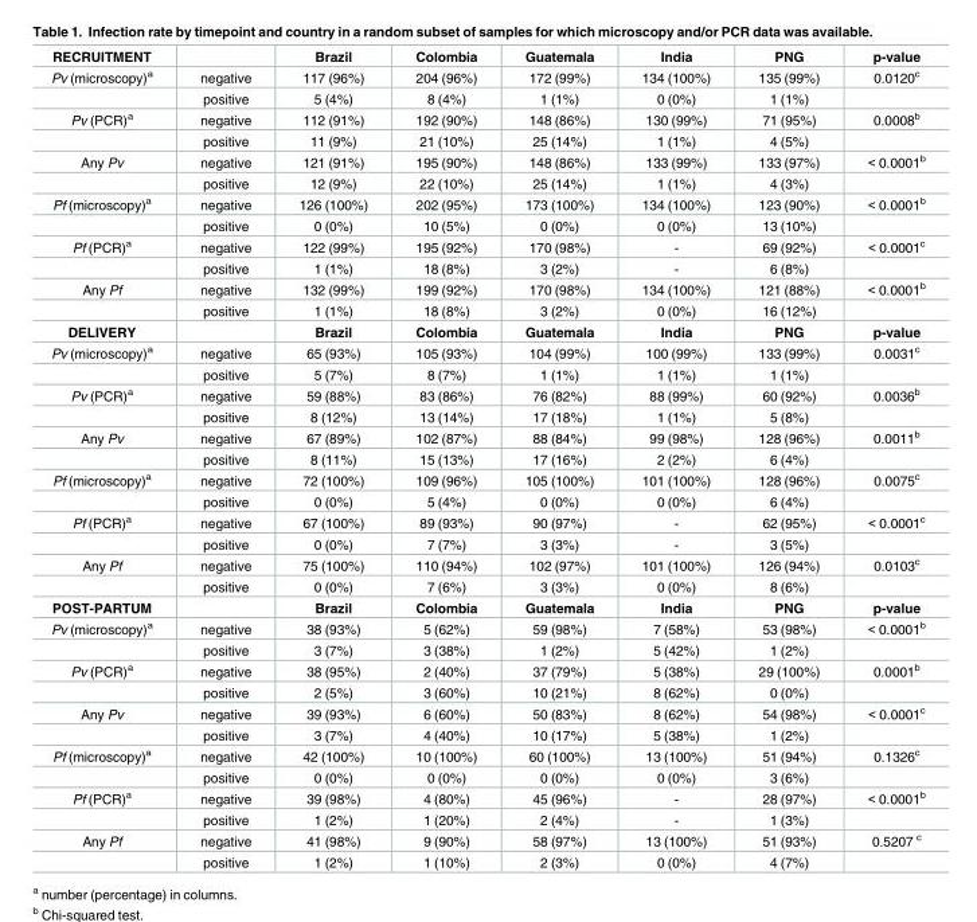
<table><tbody><tr><td>RECRUITMENT</td><td></td><td>Brazil</td><td>Colombia</td><td>Guatemala</td><td>India</td><td>PNG</td><td>p-value</td></tr><tr><td rowspan="2">Pv (microscopy)<sup>a</sup></td><td>negative</td><td>117 (96%)</td><td>204 (96%)</td><td>172 (99%)</td><td>134 (100%)</td><td>135 (99%)</td><td>0.0120<sup>c</sup></td></tr><tr><td>positive</td><td>5 (4%)</td><td>8 (4%)</td><td>1 (1%)</td><td>0 (0%)</td><td>1 (1%)</td><td></td></tr><tr><td rowspan="2">Pv (PCR)<sup>a</sup></td><td>negative</td><td>112 (91%)</td><td>192 (90%)</td><td>148 (86%)</td><td>130 (99%)</td><td>71 (95%)</td><td>0.0008<sup>b</sup></td></tr><tr><td>positive</td><td>11 (9%)</td><td>21 (10%)</td><td>25 (14%)</td><td>1 (1%)</td><td>4 (5%)</td><td></td></tr><tr><td rowspan="2">Any Pv</td><td>negative</td><td>121 (91%)</td><td>195 (90%)</td><td>148 (86%)</td><td>133 (99%)</td><td>133 (97%)</td><td>&lt; 0.0001<sup>b</sup></td></tr><tr><td>positive</td><td>12 (9%)</td><td>22 (10%)</td><td>25 (14%)</td><td>1 (1%)</td><td>4 (3%)</td><td></td></tr><tr><td rowspan="2">Pf (microscopy)<sup>a</sup></td><td>negative</td><td>126 (100%)</td><td>202 (95%)</td><td>173 (100%)</td><td>134 (100%)</td><td>123 (90%)</td><td>&lt; 0.0001<sup>b</sup></td></tr><tr><td>positive</td><td>0 (0%)</td><td>10 (5%)</td><td>0 (0%)</td><td>0 (0%)</td><td>13 (10%)</td><td></td></tr><tr><td rowspan="2">Pf (PCR)<sup>a</sup></td><td>negative</td><td>122 (99%)</td><td>195 (92%)</td><td>170 (98%)</td><td>-</td><td>69 (92%)</td><td>&lt; 0.0001<sup>c</sup></td></tr><tr><td>positive</td><td>1 (1%)</td><td>18 (8%)</td><td>3 (2%)</td><td>-</td><td>6 (8%)</td><td></td></tr><tr><td rowspan="2">Any Pf</td><td>negative</td><td>132 (99%)</td><td>199 (92%)</td><td>170 (98%)</td><td>134 (100%)</td><td>121 (88%)</td><td>&lt; 0.0001<sup>b</sup></td></tr><tr><td>positive</td><td>1 (1%)</td><td>18 (8%)</td><td>3 (2%)</td><td>0 (0%)</td><td>16 (12%)</td><td></td></tr><tr><td>DELIVERY</td><td></td><td>Brazil</td><td>Colombia</td><td>Guatemala</td><td>India</td><td>PNG</td><td>p-value</td></tr><tr><td rowspan="2">Pv (microscopy)<sup>a</sup></td><td>negative</td><td>65 (93%)</td><td>105 (93%)</td><td>104 (99%)</td><td>100 (99%)</td><td>133 (99%)</td><td>0.0031<sup>c</sup></td></tr><tr><td>positive</td><td>5 (7%)</td><td>8 (7%)</td><td>1 (1%)</td><td>1 (1%)</td><td>1 (1%)</td><td></td></tr><tr><td rowspan="2">Pv (PCR)<sup>a</sup></td><td>negative</td><td>59 (88%)</td><td>83 (86%)</td><td>76 (82%)</td><td>88 (99%)</td><td>60 (92%)</td><td>0.0036<sup>b</sup></td></tr><tr><td>positive</td><td>8 (12%)</td><td>13 (14%)</td><td>17 (18%)</td><td>1 (1%)</td><td>5 (8%)</td><td></td></tr><tr><td rowspan="2">Any Pv</td><td>negative</td><td>67 (89%)</td><td>102 (87%)</td><td>88 (84%)</td><td>99 (98%)</td><td>128 (96%)</td><td>0.0011<sup>b</sup></td></tr><tr><td>positive</td><td>8 (11%)</td><td>15 (13%)</td><td>17 (16%)</td><td>2 (2%)</td><td>6 (4%)</td><td></td></tr><tr><td rowspan="2">Pf (microscopy)<sup>a</sup></td><td>negative</td><td>72 (100%)</td><td>109 (96%)</td><td>105 (100%)</td><td>101 (100%)</td><td>128 (96%)</td><td>0.0075<sup>c</sup></td></tr><tr><td>positive</td><td>0 (0%)</td><td>5 (4%)</td><td>0 (0%)</td><td>0 (0%)</td><td>6 (4%)</td><td></td></tr><tr><td rowspan="2">Pf (PCR)<sup>a</sup></td><td>negative</td><td>67 (100%)</td><td>89 (93%)</td><td>90 (97%)</td><td>-</td><td>62 (95%)</td><td>&lt; 0.0001<sup>c</sup></td></tr><tr><td>positive</td><td>0 (0%)</td><td>7 (7%)</td><td>3 (3%)</td><td>-</td><td>3 (5%)</td><td></td></tr><tr><td rowspan="2">Any Pf</td><td>negative</td><td>75 (100%)</td><td>110 (94%)</td><td>102 (97%)</td><td>101 (100%)</td><td>126 (94%)</td><td>0.0103<sup>c</sup></td></tr><tr><td>positive</td><td>0 (0%)</td><td>7 (6%)</td><td>3 (3%)</td><td>0 (0%)</td><td>8 (6%)</td><td></td></tr><tr><td>POST-PARTUM</td><td></td><td>Brazil</td><td>Colombia</td><td>Guatemala</td><td>India</td><td>PNG</td><td>p-value</td></tr><tr><td rowspan="2">Pv (microscopy)<sup>a</sup></td><td>negative</td><td>38 (93%)</td><td>5 (62%)</td><td>59 (98%)</td><td>7 (58%)</td><td>53 (98%)</td><td>&lt; 0.0001<sup>b</sup></td></tr><tr><td>positive</td><td>3 (7%)</td><td>3 (38%)</td><td>1 (2%)</td><td>5 (42%)</td><td>1 (2%)</td><td></td></tr><tr><td rowspan="2">Pv (PCR)<sup>a</sup></td><td>negative</td><td>38 (95%)</td><td>2 (40%)</td><td>37 (79%)</td><td>5 (38%)</td><td>29 (100%)</td><td>0.0001<sup>b</sup></td></tr><tr><td>positive</td><td>2 (5%)</td><td>3 (60%)</td><td>10 (21%)</td><td>8 (62%)</td><td>0 (0%)</td><td></td></tr><tr><td rowspan="2">Any Pv</td><td>negative</td><td>39 (93%)</td><td>6 (60%)</td><td>50 (83%)</td><td>8 (62%)</td><td>54 (98%)</td><td>&lt; 0.0001<sup>c</sup></td></tr><tr><td>positive</td><td>3 (7%)</td><td>4 (40%)</td><td>10 (17%)</td><td>5 (38%)</td><td>1 (2%)</td><td></td></tr><tr><td rowspan="2">Pf (microscopy)<sup>a</sup></td><td>negative</td><td>42 (100%)</td><td>10 (100%)</td><td>60 (100%)</td><td>13 (100%)</td><td>51 (94%)</td><td>0.1326<sup>c</sup></td></tr><tr><td>positive</td><td>0 (0%)</td><td>0 (0%)</td><td>0 (0%)</td><td>0 (0%)</td><td>3 (6%)</td><td></td></tr><tr><td rowspan="2">Pf (PCR)<sup>a</sup></td><td>negative</td><td>39 (98%)</td><td>4 (80%)</td><td>45 (96%)</td><td>-</td><td>28 (97%)</td><td>&lt; 0.0001<sup>b</sup></td></tr><tr><td>positive</td><td>1 (2%)</td><td>1 (20%)</td><td>2 (4%)</td><td>-</td><td>1 (3%)</td><td></td></tr><tr><td rowspan="2">Any Pf</td><td>negative</td><td>41 (98%)</td><td>9 (90%)</td><td>58 (97%)</td><td>13 (100%)</td><td>51 (93%)</td><td>0.5207 <sup>c</sup></td></tr><tr><td>positive</td><td>1 (2%)</td><td>1 (10%)</td><td>2 (3%)</td><td>0 (0%)</td><td>4 (7%)</td><td></td></tr></tbody></table>